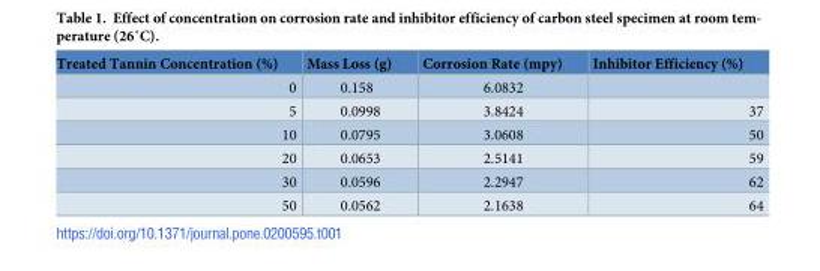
<table><thead><tr><td>Treated Tannin Concentration (%)</td><td>Mass Loss (g)</td><td>Corrosion Rate (mpy)</td><td>Inhibitor Efficiency (%)</td></tr></thead><tbody><tr><td>0</td><td>0.158</td><td>6.0832</td><td></td></tr><tr><td>5</td><td>0.0998</td><td>3.8424</td><td>37</td></tr><tr><td>10</td><td>0.0795</td><td>3.0608</td><td>50</td></tr><tr><td>20</td><td>0.0653</td><td>2.5141</td><td>59</td></tr><tr><td>30</td><td>0.0596</td><td>2.2947</td><td>62</td></tr><tr><td>50</td><td>0.0562</td><td>2.1638</td><td>64</td></tr></tbody></table>